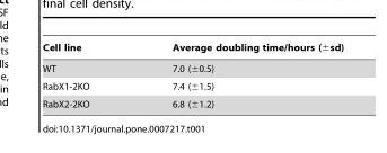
<table><thead><tr><td>Cell line</td><td>Average doubling time/hours (±sd)</td></tr></thead><tbody><tr><td>WT</td><td>7.0 (±0.5)</td></tr><tr><td>RabX1-2KO</td><td>7.4 (±1.5)</td></tr><tr><td>RabX2-2KO</td><td>6.8 (±1.2)</td></tr></tbody></table>